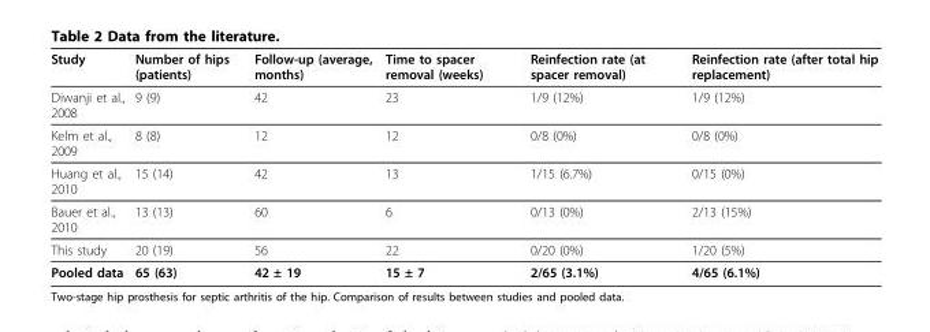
<table><thead><tr><td>Study</td><td>Number of hips (patients)</td><td>Follow-up (average, months)</td><td>Time to spacer removal (weeks)</td><td>Reinfection rate (at spacer removal)</td><td>Reinfection rate (after total hip replacement)</td></tr></thead><tbody><tr><td>Diwanji et al., 2008</td><td>9 (9)</td><td>42</td><td>23</td><td>1/9 (12%)</td><td>1/9 (12%)</td></tr><tr><td>Kelm et al., 2009</td><td>8 (8)</td><td>12</td><td>12</td><td>0/8 (0%)</td><td>0/8 (0%)</td></tr><tr><td>Huang et al., 2010</td><td>15 (14)</td><td>42</td><td>13</td><td>1/15 (6.7%)</td><td>0/15 (0%)</td></tr><tr><td>Bauer et al., 2010</td><td>13 (13)</td><td>60</td><td>6</td><td>0/13 (0%)</td><td>2/13 (15%)</td></tr><tr><td>This study</td><td>20 (19)</td><td>56</td><td>22</td><td>0/20 (0%)</td><td>1/20 (5%)</td></tr><tr><td>Pooled data</td><td>65 (63)</td><td>42 ± 19</td><td>15 ± 7</td><td>2/65 (3.1%)</td><td>4/65 (6.1%)</td></tr></tbody></table>